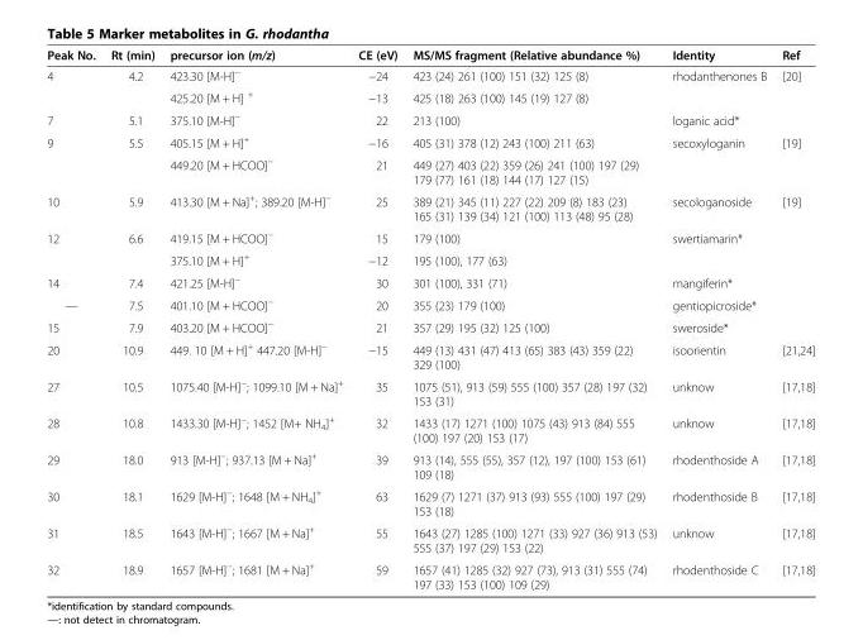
<table><thead><tr><td>Peak No.</td><td>Rt (min)</td><td>precursor ion (m/z)</td><td>CE (eV)</td><td>MS/MS fragment (Relative abundance %)</td><td>Identity</td><td>Ref</td></tr></thead><tbody><tr><td rowspan="2">4</td><td rowspan="2">4.2</td><td>423.30 [M-H]<sup>−</sup></td><td>−24</td><td>423 (24) 261 (100) 151 (32) 125 (8)</td><td>rhodanthenones B</td><td>[20]</td></tr><tr><td>425.20 [M + H] <sup>+</sup></td><td>−13</td><td>425 (18) 263 (100) 145 (19) 127 (8)</td><td></td><td></td></tr><tr><td>7</td><td>5.1</td><td>375.10 [M-H]<sup>−</sup></td><td>22</td><td>213 (100)</td><td>loganic acid*</td><td></td></tr><tr><td rowspan="2">9</td><td rowspan="2">5.5</td><td>405.15 [M + H]<sup>+</sup></td><td>−16</td><td>405 (31) 378 (12) 243 (100) 211 (63)</td><td>secoxyloganin</td><td>[19]</td></tr><tr><td>449.20 [M + HCOO]<sup>−</sup></td><td>21</td><td>449 (27) 403 (22) 359 (26) 241 (100) 197 (29) 179 (77) 161 (18) 144 (17) 127 (15)</td><td></td><td></td></tr><tr><td>10</td><td>5.9</td><td>413.30 [M + Na]<sup>+</sup>; 389.20 [M-H]<sup>−</sup></td><td>25</td><td>389 (21) 345 (11) 227 (22) 209 (8) 183 (23) 165 (31) 139 (34) 121 (100) 113 (48) 95 (28)</td><td>secologanoside</td><td>[19]</td></tr><tr><td rowspan="2">12</td><td rowspan="2">6.6</td><td>419.15 [M + HCOO]<sup>−</sup></td><td>15</td><td>179 (100)</td><td rowspan="2">swertiamarin*</td><td></td></tr><tr><td>375.10 [M + H]<sup>+</sup></td><td>−12</td><td>195 (100), 177 (63)</td><td></td></tr><tr><td>14</td><td>7.4</td><td>421.25 [M-H]<sup>−</sup></td><td>30</td><td>301 (100), 331 (71)</td><td>mangiferin*</td><td></td></tr><tr><td>—</td><td>7.5</td><td>401.10 [M + HCOO]<sup>−</sup></td><td>20</td><td>355 (23) 179 (100)</td><td>gentiopicroside*</td><td></td></tr><tr><td>15</td><td>7.9</td><td>403.20 [M + HCOO]<sup>−</sup></td><td>21</td><td>357 (29) 195 (32) 125 (100)</td><td>sweroside*</td><td></td></tr><tr><td>20</td><td>10.9</td><td>449. 10 [M + H]<sup>+</sup> 447.20 [M-H]<sup>−</sup></td><td>−15</td><td>449 (13) 431 (47) 413 (65) 383 (43) 359 (22) 329 (100)</td><td>isoorientin</td><td>[21,24]</td></tr><tr><td>27</td><td>10.5</td><td>1075.40 [M-H]<sup>−</sup>; 1099.10 [M + Na]<sup>+</sup></td><td>35</td><td>1075 (51), 913 (59) 555 (100) 357 (28) 197 (32) 153 (31)</td><td>unknow</td><td>[17,18]</td></tr><tr><td>28</td><td>10.8</td><td>1433.30 [M-H]<sup>−</sup>; 1452 [M+ NH<sub>4</sub>]<sup>+</sup></td><td>32</td><td>1433 (17) 1271 (100) 1075 (43) 913 (84) 555 (100) 197 (20) 153 (17)</td><td>unknow</td><td>[17,18]</td></tr><tr><td>29</td><td>18.0</td><td>913 [M-H]<sup>−</sup>; 937.13 [M + Na]<sup>+</sup></td><td>39</td><td>913 (14), 555 (55), 357 (12), 197 (100) 153 (61) 109 (18)</td><td>rhodenthoside A</td><td>[17,18]</td></tr><tr><td>30</td><td>18.1</td><td>1629 [M-H]<sup>−</sup>; 1648 [M + NH<sub>4</sub>]<sup>+</sup></td><td>63</td><td>1629 (7) 1271 (37) 913 (93) 555 (100) 197 (29) 153 (18)</td><td>rhodenthoside B</td><td>[17,18]</td></tr><tr><td>31</td><td>18.5</td><td>1643 [M-H]<sup>−</sup>; 1667 [M + Na]<sup>+</sup></td><td>55</td><td>1643 (27) 1285 (100) 1271 (33) 927 (36) 913 (53) 555 (37) 197 (29) 153 (22)</td><td>unknow</td><td>[17,18]</td></tr><tr><td>32</td><td>18.9</td><td>1657 [M-H]<sup>−</sup>; 1681 [M + Na]<sup>+</sup></td><td>59</td><td>1657 (41) 1285 (32) 927 (73), 913 (31) 555 (74) 197 (33) 153 (100) 109 (29)</td><td>rhodenthoside C</td><td>[17,18]</td></tr></tbody></table>